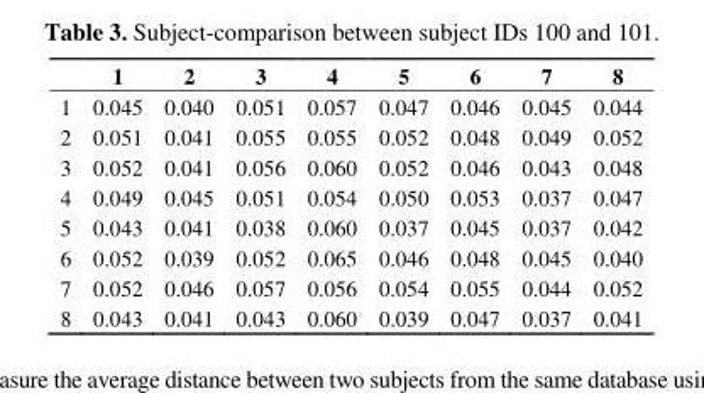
<table><thead><tr><td></td><td>1</td><td>2</td><td>3</td><td>4</td><td>5</td><td>6</td><td>7</td><td>8</td></tr></thead><tbody><tr><td>1</td><td>0.045</td><td>0.040</td><td>0.051</td><td>0.057</td><td>0.047</td><td>0.046</td><td>0.045</td><td>0.044</td></tr><tr><td>2</td><td>0.051</td><td>0.041</td><td>0.055</td><td>0.055</td><td>0.052</td><td>0.048</td><td>0.049</td><td>0.052</td></tr><tr><td>3</td><td>0.052</td><td>0.041</td><td>0.056</td><td>0.060</td><td>0.052</td><td>0.046</td><td>0.043</td><td>0.048</td></tr><tr><td>4</td><td>0.049</td><td>0.045</td><td>0.051</td><td>0.054</td><td>0.050</td><td>0.053</td><td>0.037</td><td>0.047</td></tr><tr><td>5</td><td>0.043</td><td>0.041</td><td>0.038</td><td>0.060</td><td>0.037</td><td>0.045</td><td>0.037</td><td>0.042</td></tr><tr><td>6</td><td>0.052</td><td>0.039</td><td>0.052</td><td>0.065</td><td>0.046</td><td>0.048</td><td>0.045</td><td>0.040</td></tr><tr><td>7</td><td>0.052</td><td>0.046</td><td>0.057</td><td>0.056</td><td>0.054</td><td>0.055</td><td>0.044</td><td>0.052</td></tr><tr><td>8</td><td>0.043</td><td>0.041</td><td>0.043</td><td>0.060</td><td>0.039</td><td>0.047</td><td>0.037</td><td>0.041</td></tr></tbody></table>